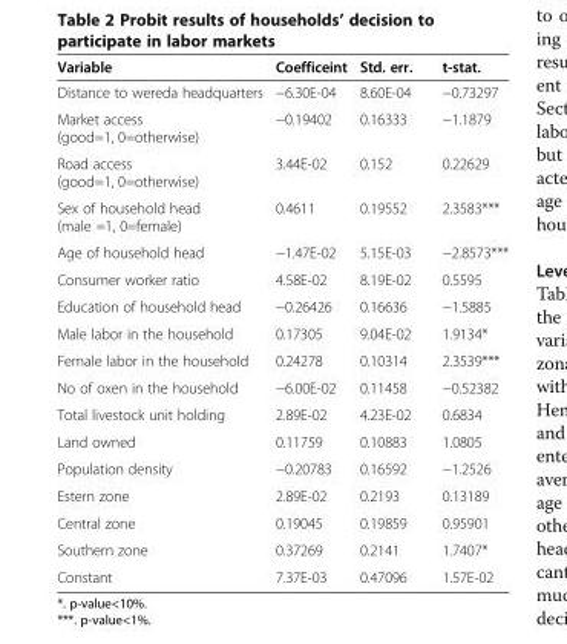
<table><thead><tr><td>Variable</td><td>Coefficeint</td><td>Std. err.</td><td>t-stat.</td></tr></thead><tbody><tr><td>Distance to wereda headquarters</td><td>−6.30E-04</td><td>8.60E-04</td><td>−0.73297</td></tr><tr><td>Market access (good=1, 0=otherwise)</td><td>−0.19402</td><td>0.16333</td><td>−1.1879</td></tr><tr><td>Road access (good=1, 0=otherwise)</td><td>3.44E-02</td><td>0.152</td><td>0.22629</td></tr><tr><td>Sex of household head (male =1, 0=female)</td><td>0.4611</td><td>0.19552</td><td>2.3583***</td></tr><tr><td>Age of household head</td><td>−1.47E-02</td><td>5.15E-03</td><td>−2.8573***</td></tr><tr><td>Consumer worker ratio</td><td>4.58E-02</td><td>8.19E-02</td><td>0.5595</td></tr><tr><td>Education of household head</td><td>−0.26426</td><td>0.16636</td><td>−1.5885</td></tr><tr><td>Male labor in the household</td><td>0.17305</td><td>9.04E-02</td><td>1.9134*</td></tr><tr><td>Female labor in the household</td><td>0.24278</td><td>0.10314</td><td>2.3539***</td></tr><tr><td>No of oxen in the household</td><td>−6.00E-02</td><td>0.11458</td><td>−0.52382</td></tr><tr><td>Total livestock unit holding</td><td>2.89E-02</td><td>4.23E-02</td><td>0.6834</td></tr><tr><td>Land owned</td><td>0.11759</td><td>0.10883</td><td>1.0805</td></tr><tr><td>Population density</td><td>−0.20783</td><td>0.16592</td><td>−1.2526</td></tr><tr><td>Estern zone</td><td>2.89E-02</td><td>0.2193</td><td>0.13189</td></tr><tr><td>Central zone</td><td>0.19045</td><td>0.19859</td><td>0.95901</td></tr><tr><td>Southern zone</td><td>0.37269</td><td>0.2141</td><td>1.7407*</td></tr><tr><td>Constant</td><td>7.37E-03</td><td>0.47096</td><td>1.57E-02</td></tr></tbody></table>